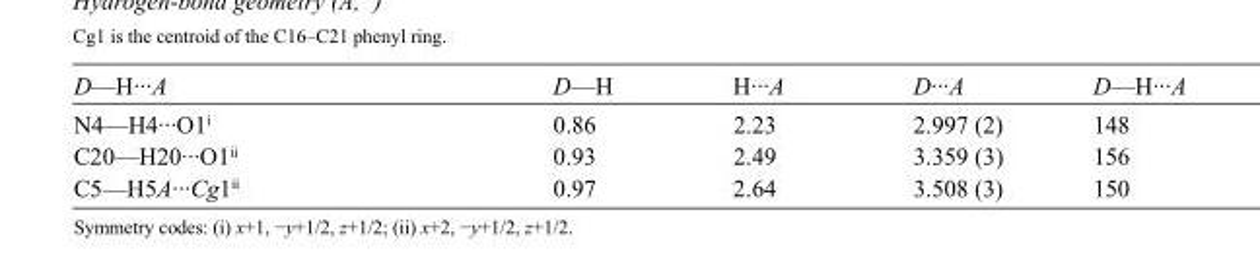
<table><tbody><tr><td>D—H···A</td><td>D—H</td><td>H···A</td><td>D···A</td><td>D—H···A</td></tr><tr><td>N4—H4···O1<sup>i</sup></td><td>0.86</td><td>2.23</td><td>2.997 (2)</td><td>148</td></tr><tr><td>C20—H20···O1<sup>ii</sup></td><td>0.93</td><td>2.49</td><td>3.359 (3)</td><td>156</td></tr><tr><td>C5—H5A···Cg1<sup>ii</sup></td><td>0.97</td><td>2.64</td><td>3.508 (3)</td><td>150</td></tr></tbody></table>